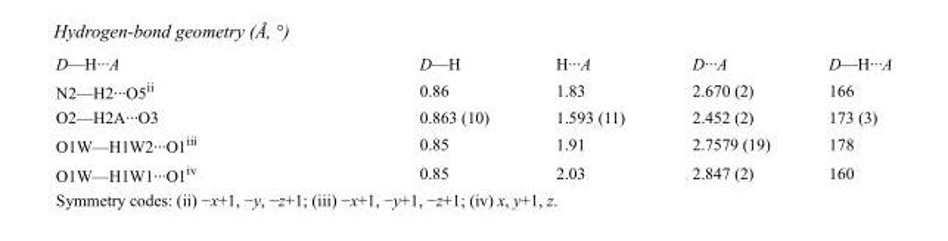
<table><tbody><tr><td>D—H···A</td><td>D—H</td><td>H···A</td><td>D···A</td><td>D—H···A</td></tr><tr><td>N2—H2···O5<sup>ii</sup></td><td>0.86</td><td>1.83</td><td>2.670 (2)</td><td>166</td></tr><tr><td>O2—H2A···O3</td><td>0.863 (10)</td><td>1.593 (11)</td><td>2.452 (2)</td><td>173 (3)</td></tr><tr><td>O1W—H1W2···O1<sup>iii</sup></td><td>0.85</td><td>1.91</td><td>2.7579 (19)</td><td>178</td></tr><tr><td>O1W—H1W1···O1<sup>iv</sup></td><td>0.85</td><td>2.03</td><td>2.847 (2)</td><td>160</td></tr></tbody></table>